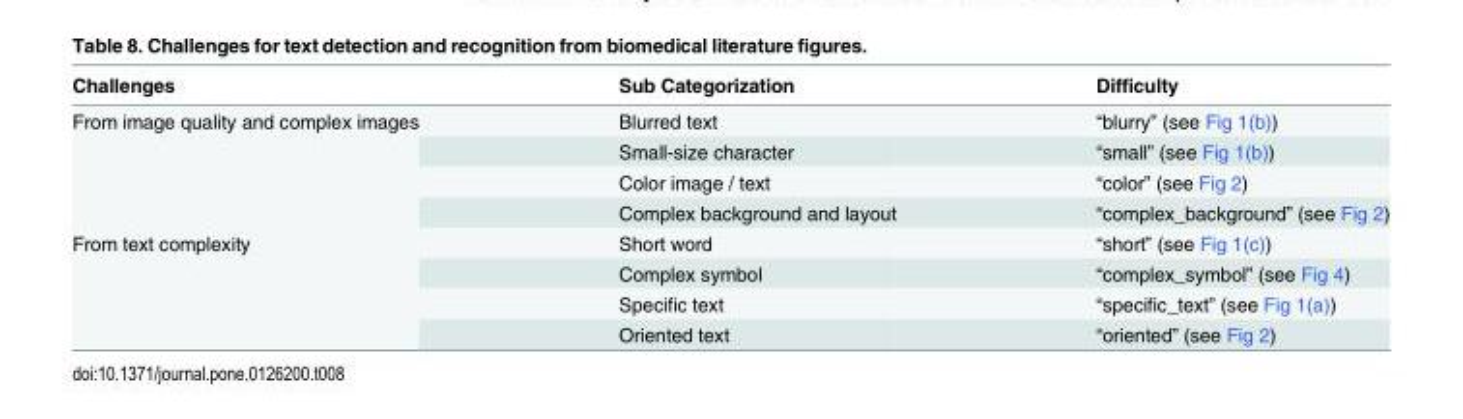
<table><thead><tr><td>Challenges</td><td>Sub Categorization</td><td>Difficulty</td></tr></thead><tbody><tr><td rowspan="4">From image quality and complex images</td><td>Blurred text</td><td>“blurry” (see Fig 1(b))</td></tr><tr><td>Small-size character</td><td>“small” (see Fig 1(b))</td></tr><tr><td>Color image / text</td><td>“color” (see Fig 2)</td></tr><tr><td>Complex background and layout</td><td>“complex_background” (see Fig 2)</td></tr><tr><td rowspan="4">From text complexity</td><td>Short word</td><td>“short” (see Fig 1(c))</td></tr><tr><td>Complex symbol</td><td>“complex_symbol” (see Fig 4)</td></tr><tr><td>Specific text</td><td>“specific_text” (see Fig 1(a))</td></tr><tr><td>Oriented text</td><td>“oriented” (see Fig 2)</td></tr></tbody></table>